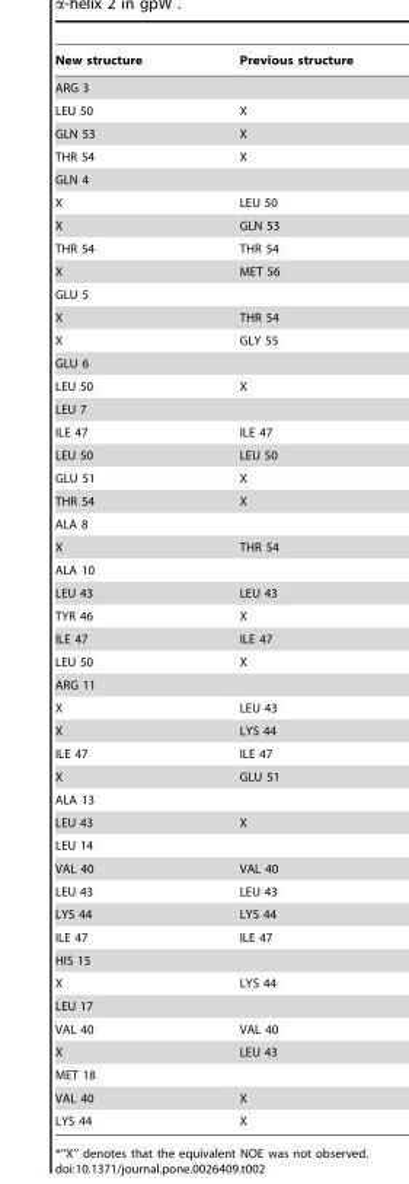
<table><thead><tr><td>New structure</td><td>Previous structure</td></tr></thead><tbody><tr><td colspan="2">ARG 3</td></tr><tr><td>LEU 50</td><td>X</td></tr><tr><td>GLN 53</td><td>X</td></tr><tr><td>THR 54</td><td>X</td></tr><tr><td colspan="2">GLN 4</td></tr><tr><td>X</td><td>LEU 50</td></tr><tr><td>X</td><td>GLN 53</td></tr><tr><td>THR 54</td><td>THR 54</td></tr><tr><td>X</td><td>MET 56</td></tr><tr><td colspan="2">GLU 5</td></tr><tr><td>X</td><td>THR 54</td></tr><tr><td>X</td><td>GLY 55</td></tr><tr><td colspan="2">GLU 6</td></tr><tr><td>LEU 50</td><td>X</td></tr><tr><td colspan="2">LEU 7</td></tr><tr><td>ILE 47</td><td>ILE 47</td></tr><tr><td>LEU 50</td><td>LEU 50</td></tr><tr><td>GLU 51</td><td>X</td></tr><tr><td>THR 54</td><td>X</td></tr><tr><td colspan="2">ALA 8</td></tr><tr><td>X</td><td>THR 54</td></tr><tr><td colspan="2">ALA 10</td></tr><tr><td>LEU 43</td><td>LEU 43</td></tr><tr><td>TYR 46</td><td>X</td></tr><tr><td>ILE 47</td><td>ILE 47</td></tr><tr><td>LEU 50</td><td>X</td></tr><tr><td colspan="2">ARG 11</td></tr><tr><td>X</td><td>LEU 43</td></tr><tr><td>X</td><td>LYS 44</td></tr><tr><td>ILE 47</td><td>ILE 47</td></tr><tr><td>X</td><td>GLU 51</td></tr><tr><td colspan="2">ALA 13</td></tr><tr><td>LEU 43</td><td>X</td></tr><tr><td colspan="2">LEU 14</td></tr><tr><td>VAL 40</td><td>VAL 40</td></tr><tr><td>LEU 43</td><td>LEU 43</td></tr><tr><td>LYS 44</td><td>LYS 44</td></tr><tr><td>ILE 47</td><td>ILE 47</td></tr><tr><td colspan="2">HIS 15</td></tr><tr><td>X</td><td>LYS 44</td></tr><tr><td colspan="2">LEU 17</td></tr><tr><td>VAL 40</td><td>VAL 40</td></tr><tr><td>X</td><td>LEU 43</td></tr><tr><td colspan="2">MET 18</td></tr><tr><td>VAL 40</td><td>X</td></tr><tr><td>LYS 44</td><td>X</td></tr></tbody></table>